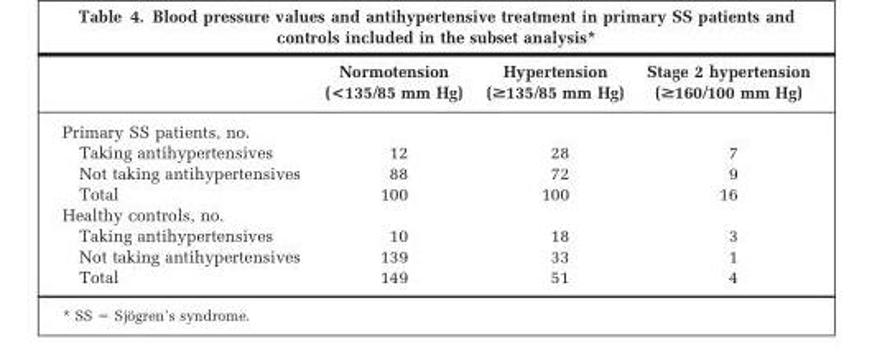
<table><thead><tr><td></td><td>Normotension (&lt;135/85 mm Hg)</td><td>Hypertension (&gt;135/85 mm Hg)</td><td>Stage 2 hypertension (&gt;160/100 mm Hg)</td></tr></thead><tbody><tr><td colspan="4">Primary SS patients, no.</td></tr><tr><td>Taking antihypertensives</td><td>12</td><td>28</td><td>7</td></tr><tr><td>Not taking antihypertensives</td><td>88</td><td>72</td><td>9</td></tr><tr><td>Total</td><td>100</td><td>100</td><td>16</td></tr><tr><td colspan="4">Healthy controls, no.</td></tr><tr><td>Taking antihypertensives</td><td>10</td><td>18</td><td>3</td></tr><tr><td>Not taking antihypertensives</td><td>139</td><td>33</td><td>1</td></tr><tr><td>Total</td><td>149</td><td>51</td><td>4</td></tr></tbody></table>